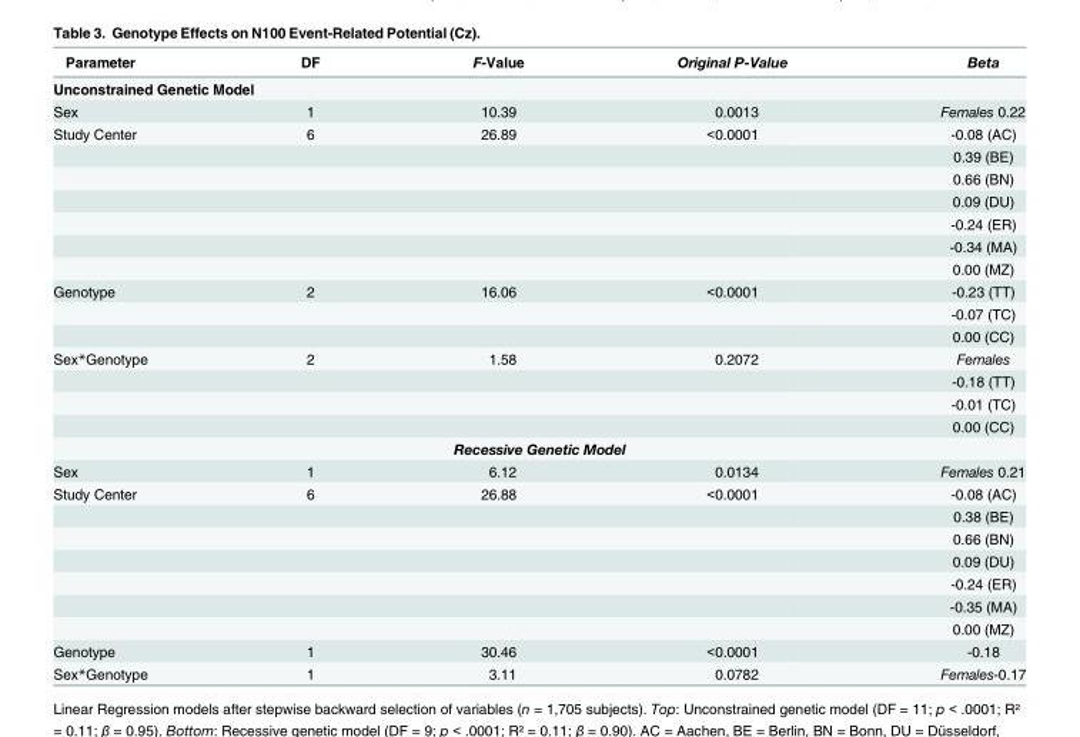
<table><thead><tr><td>Parameter</td><td>DF</td><td>F-Value</td><td>Original P-Value</td><td>Beta</td></tr></thead><tbody><tr><td colspan="5">Unconstrained Genetic Model</td></tr><tr><td>Sex</td><td>1</td><td>10.39</td><td>0.0013</td><td>Females 0.22</td></tr><tr><td rowspan="7">Study Center</td><td>6</td><td>26.89</td><td>&lt;0.0001</td><td>-0.08 (AC)</td></tr><tr><td></td><td></td><td></td><td>0.39 (BE)</td></tr><tr><td></td><td></td><td></td><td>0.66 (BN)</td></tr><tr><td></td><td></td><td></td><td>0.09 (DU)</td></tr><tr><td></td><td></td><td></td><td>-0.24 (ER)</td></tr><tr><td></td><td></td><td></td><td>-0.34 (MA)</td></tr><tr><td></td><td></td><td></td><td>0.00 (MZ)</td></tr><tr><td rowspan="3">Genotype</td><td>2</td><td>16.06</td><td>&lt;0.0001</td><td>-0.23 (TT)</td></tr><tr><td></td><td></td><td></td><td>-0.07 (TC)</td></tr><tr><td></td><td></td><td></td><td>0.00 (CC)</td></tr><tr><td rowspan="4">Sex*Genotype</td><td>2</td><td>1.58</td><td>0.2072</td><td>Females</td></tr><tr><td></td><td></td><td></td><td>-0.18 (TT)</td></tr><tr><td></td><td></td><td></td><td>-0.01 (TC)</td></tr><tr><td></td><td></td><td></td><td>0.00 (CC)</td></tr><tr><td colspan="5">Recessive Genetic Model</td></tr><tr><td>Sex</td><td>1</td><td>6.12</td><td>0.0134</td><td>Females 0.21</td></tr><tr><td rowspan="7">Study Center</td><td>6</td><td>26.88</td><td>&lt;0.0001</td><td>-0.08 (AC)</td></tr><tr><td></td><td></td><td></td><td>0.38 (BE)</td></tr><tr><td></td><td></td><td></td><td>0.66 (BN)</td></tr><tr><td></td><td></td><td></td><td>0.09 (DU)</td></tr><tr><td></td><td></td><td></td><td>-0.24 (ER)</td></tr><tr><td></td><td></td><td></td><td>-0.35 (MA)</td></tr><tr><td></td><td></td><td></td><td>0.00 (MZ)</td></tr><tr><td>Genotype</td><td>1</td><td>30.46</td><td>&lt;0.0001</td><td>-0.18</td></tr><tr><td>Sex*Genotype</td><td>1</td><td>3.11</td><td>0.0782</td><td>Females-0.17</td></tr></tbody></table>